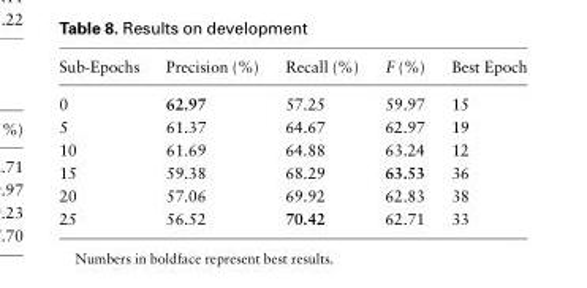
<table><thead><tr><td>Sub-Epochs</td><td>Precision (%)</td><td>Recall (%)</td><td>F (%)</td><td>Best Epoch</td></tr></thead><tbody><tr><td>0</td><td>62.97</td><td>57.25</td><td>59.97</td><td>15</td></tr><tr><td>5</td><td>61.37</td><td>64.67</td><td>62.97</td><td>19</td></tr><tr><td>10</td><td>61.69</td><td>64.88</td><td>63.24</td><td>12</td></tr><tr><td>15</td><td>59.38</td><td>68.29</td><td>63.53</td><td>36</td></tr><tr><td>20</td><td>57.06</td><td>69.92</td><td>62.83</td><td>38</td></tr><tr><td>25</td><td>56.52</td><td>70.42</td><td>62.71</td><td>33</td></tr></tbody></table>